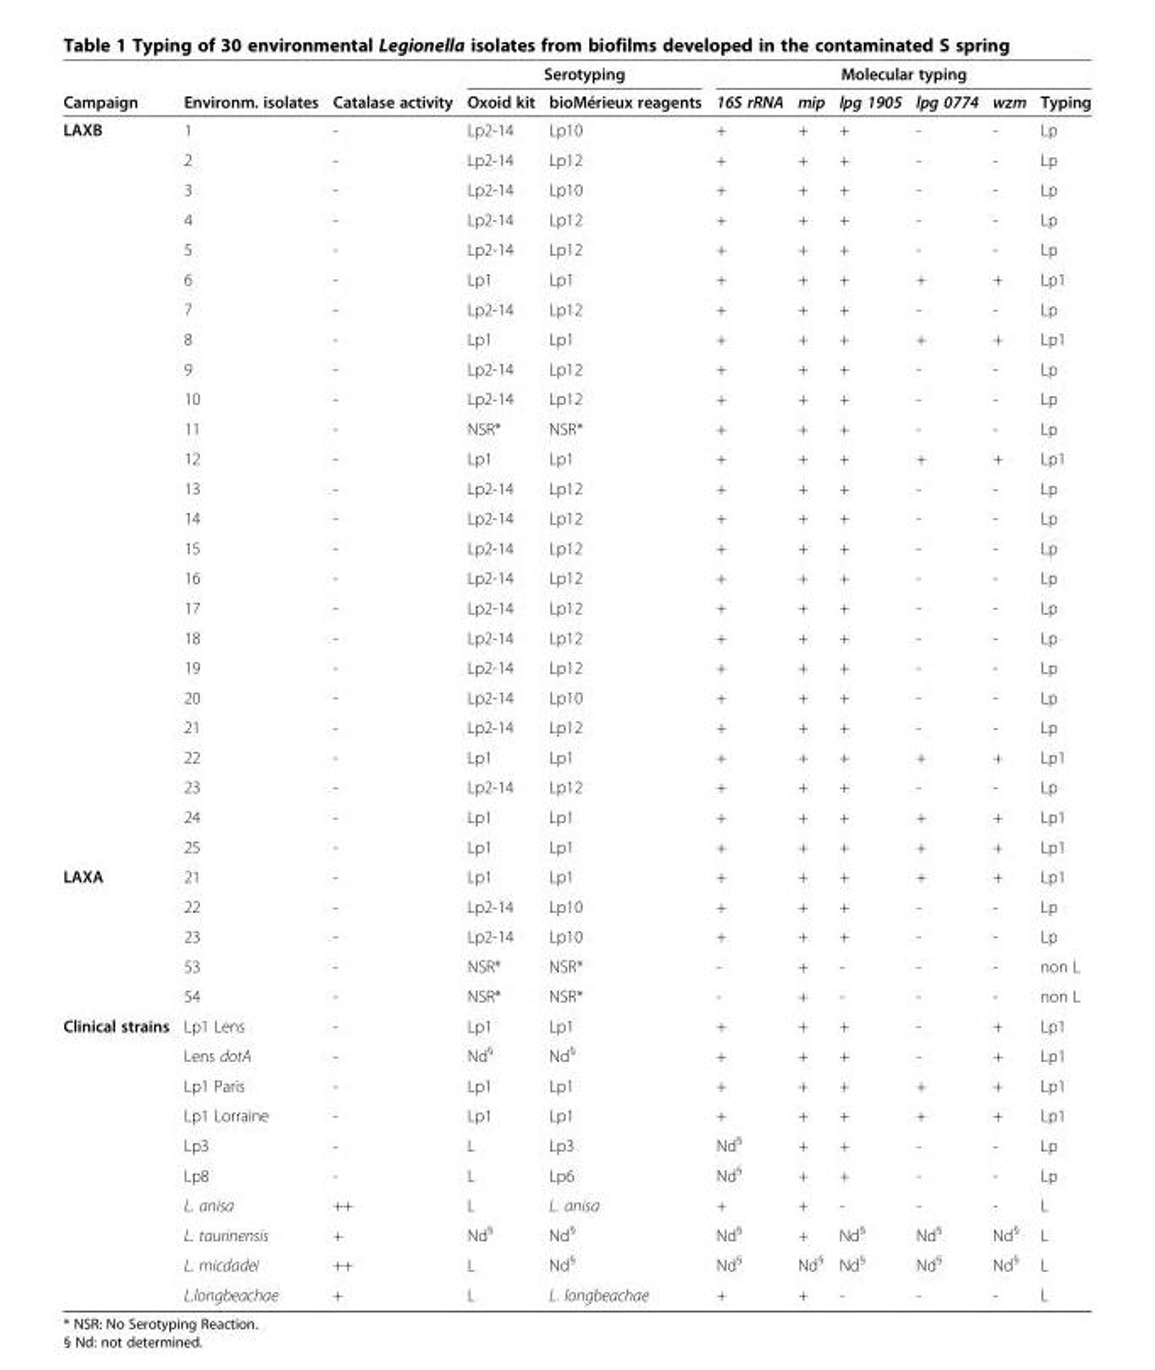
<table><thead><tr><td rowspan="2">Campaign</td><td rowspan="2">Environm. isolates</td><td rowspan="2">Catalase activity</td><td colspan="2">Serotyping</td><td colspan="6">Molecular typing</td></tr><tr><td>Oxoid kit</td><td>bioMérieux reagents</td><td>16S rRNA</td><td>mip</td><td>lpg 1905</td><td>lpg 0774</td><td>wzm</td><td>Typing</td></tr></thead><tbody><tr><td rowspan="25">LAXB</td><td>1</td><td>-</td><td>Lp2-14</td><td>Lp10</td><td>+</td><td>+</td><td>+</td><td>-</td><td>-</td><td>Lp</td></tr><tr><td>2</td><td>-</td><td>Lp2-14</td><td>Lp12</td><td>+</td><td>+</td><td>+</td><td>-</td><td>-</td><td>Lp</td></tr><tr><td>3</td><td>-</td><td>Lp2-14</td><td>Lp10</td><td>+</td><td>+</td><td>+</td><td>-</td><td>-</td><td>Lp</td></tr><tr><td>4</td><td>-</td><td>Lp2-14</td><td>Lp12</td><td>+</td><td>+</td><td>+</td><td>-</td><td>-</td><td>Lp</td></tr><tr><td>5</td><td>-</td><td>Lp2-14</td><td>Lp12</td><td>+</td><td>+</td><td>+</td><td>-</td><td>-</td><td>Lp</td></tr><tr><td>6</td><td>-</td><td>Lp1</td><td>Lp1</td><td>+</td><td>+</td><td>+</td><td>+</td><td>+</td><td>Lp1</td></tr><tr><td>7</td><td>-</td><td>Lp2-14</td><td>Lp12</td><td>+</td><td>+</td><td>+</td><td>-</td><td>-</td><td>Lp</td></tr><tr><td>8</td><td>-</td><td>Lp1</td><td>Lp1</td><td>+</td><td>+</td><td>+</td><td>+</td><td>+</td><td>Lp1</td></tr><tr><td>9</td><td>-</td><td>Lp2-14</td><td>Lp12</td><td>+</td><td>+</td><td>+</td><td>-</td><td>-</td><td>Lp</td></tr><tr><td>10</td><td>-</td><td>Lp2-14</td><td>Lp12</td><td>+</td><td>+</td><td>+</td><td>-</td><td>-</td><td>Lp</td></tr><tr><td>11</td><td>-</td><td>NSR*</td><td>NSR*</td><td>+</td><td>+</td><td>+</td><td>-</td><td>-</td><td>Lp</td></tr><tr><td>12</td><td>-</td><td>Lp1</td><td>Lp1</td><td>+</td><td>+</td><td>+</td><td>+</td><td>+</td><td>Lp1</td></tr><tr><td>13</td><td>-</td><td>Lp2-14</td><td>Lp12</td><td>+</td><td>+</td><td>+</td><td>-</td><td>-</td><td>Lp</td></tr><tr><td>14</td><td>-</td><td>Lp2-14</td><td>Lp12</td><td>+</td><td>+</td><td>+</td><td>-</td><td>-</td><td>Lp</td></tr><tr><td>15</td><td>-</td><td>Lp2-14</td><td>Lp12</td><td>+</td><td>+</td><td>+</td><td>-</td><td>-</td><td>Lp</td></tr><tr><td>16</td><td>-</td><td>Lp2-14</td><td>Lp12</td><td>+</td><td>+</td><td>+</td><td>-</td><td>-</td><td>Lp</td></tr><tr><td>17</td><td>-</td><td>Lp2-14</td><td>Lp12</td><td>+</td><td>+</td><td>+</td><td>-</td><td>-</td><td>Lp</td></tr><tr><td>18</td><td>-</td><td>Lp2-14</td><td>Lp12</td><td>+</td><td>+</td><td>+</td><td>-</td><td>-</td><td>Lp</td></tr><tr><td>19</td><td>-</td><td>Lp2-14</td><td>Lp12</td><td>+</td><td>+</td><td>+</td><td>-</td><td>-</td><td>Lp</td></tr><tr><td>20</td><td>-</td><td>Lp2-14</td><td>Lp10</td><td>+</td><td>+</td><td>+</td><td>-</td><td>-</td><td>Lp</td></tr><tr><td>21</td><td>-</td><td>Lp2-14</td><td>Lp12</td><td>+</td><td>+</td><td>+</td><td>-</td><td>-</td><td>Lp</td></tr><tr><td>22</td><td>-</td><td>Lp1</td><td>Lp1</td><td>+</td><td>+</td><td>+</td><td>+</td><td>+</td><td>Lp1</td></tr><tr><td>23</td><td>-</td><td>Lp2-14</td><td>Lp12</td><td>+</td><td>+</td><td>+</td><td>-</td><td>-</td><td>Lp</td></tr><tr><td>24</td><td>-</td><td>Lp1</td><td>Lp1</td><td>+</td><td>+</td><td>+</td><td>+</td><td>+</td><td>Lp1</td></tr><tr><td>25</td><td>-</td><td>Lp1</td><td>Lp1</td><td>+</td><td>+</td><td>+</td><td>+</td><td>+</td><td>Lp1</td></tr><tr><td rowspan="5">LAXA</td><td>21</td><td>-</td><td>Lp1</td><td>Lp1</td><td>+</td><td>+</td><td>+</td><td>+</td><td>+</td><td>Lp1</td></tr><tr><td>22</td><td>-</td><td>Lp2-14</td><td>Lp10</td><td>+</td><td>+</td><td>+</td><td>-</td><td>-</td><td>Lp</td></tr><tr><td>23</td><td>-</td><td>Lp2-14</td><td>Lp10</td><td>+</td><td>+</td><td>+</td><td>-</td><td>-</td><td>Lp</td></tr><tr><td>53</td><td>-</td><td>NSR*</td><td>NSR*</td><td>-</td><td>+</td><td>-</td><td>-</td><td>-</td><td>non L</td></tr><tr><td>54</td><td>-</td><td>NSR*</td><td>NSR*</td><td>-</td><td>+</td><td>-</td><td>-</td><td>-</td><td>non L</td></tr><tr><td rowspan="10">Clinical strains</td><td>Lp1 Lens</td><td>-</td><td>Lp1</td><td>Lp1</td><td>+</td><td>+</td><td>+</td><td>-</td><td>+</td><td>Lp1</td></tr><tr><td>Lens dotA</td><td>-</td><td>Nd<sup>§</sup></td><td>Nd<sup>§</sup></td><td>+</td><td>+</td><td>+</td><td>-</td><td>+</td><td>Lp1</td></tr><tr><td>Lp1 Paris</td><td>-</td><td>Lp1</td><td>Lp1</td><td>+</td><td>+</td><td>+</td><td>+</td><td>+</td><td>Lp1</td></tr><tr><td>Lp1 Lorraine</td><td>-</td><td>Lp1</td><td>Lp1</td><td>+</td><td>+</td><td>+</td><td>+</td><td>+</td><td>Lp1</td></tr><tr><td>Lp3</td><td>-</td><td>L</td><td>Lp3</td><td>Nd<sup>§</sup></td><td>+</td><td>+</td><td>-</td><td>-</td><td>Lp</td></tr><tr><td>Lp8</td><td>-</td><td>L</td><td>Lp6</td><td>Nd<sup>§</sup></td><td>+</td><td>+</td><td>-</td><td>-</td><td>Lp</td></tr><tr><td>L. anisa</td><td>++</td><td>L</td><td>L. anisa</td><td>+</td><td>+</td><td>-</td><td>-</td><td>-</td><td>L</td></tr><tr><td>L. taurinensis</td><td>+</td><td>Nd<sup>§</sup></td><td>Nd<sup>§</sup></td><td>Nd<sup>§</sup></td><td>+</td><td>Nd<sup>§</sup></td><td>Nd<sup>§</sup></td><td>Nd<sup>§</sup></td><td>L</td></tr><tr><td>L. micdadei</td><td>++</td><td>L</td><td>Nd<sup>§</sup></td><td>Nd<sup>§</sup></td><td>Nd<sup>§</sup></td><td>Nd<sup>§</sup></td><td>Nd<sup>§</sup></td><td>Nd<sup>§</sup></td><td>L</td></tr><tr><td>L.longbeachae</td><td>+</td><td>L</td><td>L. longbeachae</td><td>+</td><td>+</td><td>-</td><td>-</td><td>-</td><td>L</td></tr></tbody></table>